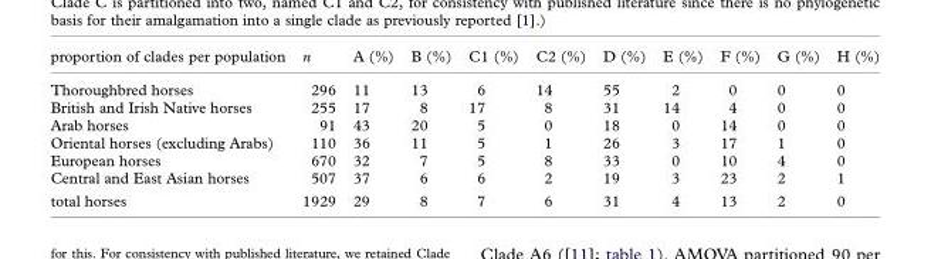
<table><thead><tr><td>proportion of clades per population</td><td>n</td><td>A (%)</td><td>B (%)</td><td>C1 (%)</td><td>C2 (%)</td><td>D (%)</td><td>E (%)</td><td>F (%)</td><td>G (%)</td><td>H (%)</td></tr></thead><tbody><tr><td>Thoroughbred horses</td><td>296</td><td>11</td><td>13</td><td>6</td><td>14</td><td>55</td><td>2</td><td>0</td><td>0</td><td>0</td></tr><tr><td>British and Irish Native horses</td><td>255</td><td>17</td><td>8</td><td>17</td><td>8</td><td>31</td><td>14</td><td>4</td><td>0</td><td>0</td></tr><tr><td>Arab horses</td><td>91</td><td>43</td><td>20</td><td>5</td><td>0</td><td>18</td><td>0</td><td>14</td><td>0</td><td>0</td></tr><tr><td>Oriental horses (excluding Arabs)</td><td>110</td><td>36</td><td>11</td><td>5</td><td>1</td><td>26</td><td>3</td><td>17</td><td>1</td><td>0</td></tr><tr><td>European horses</td><td>670</td><td>32</td><td>7</td><td>5</td><td>8</td><td>33</td><td>0</td><td>10</td><td>4</td><td>0</td></tr><tr><td>Central and East Asian horses</td><td>507</td><td>37</td><td>6</td><td>6</td><td>2</td><td>19</td><td>3</td><td>23</td><td>2</td><td>1</td></tr><tr><td>total horses</td><td>1929</td><td>29</td><td>8</td><td>7</td><td>6</td><td>31</td><td>4</td><td>13</td><td>2</td><td>0</td></tr></tbody></table>